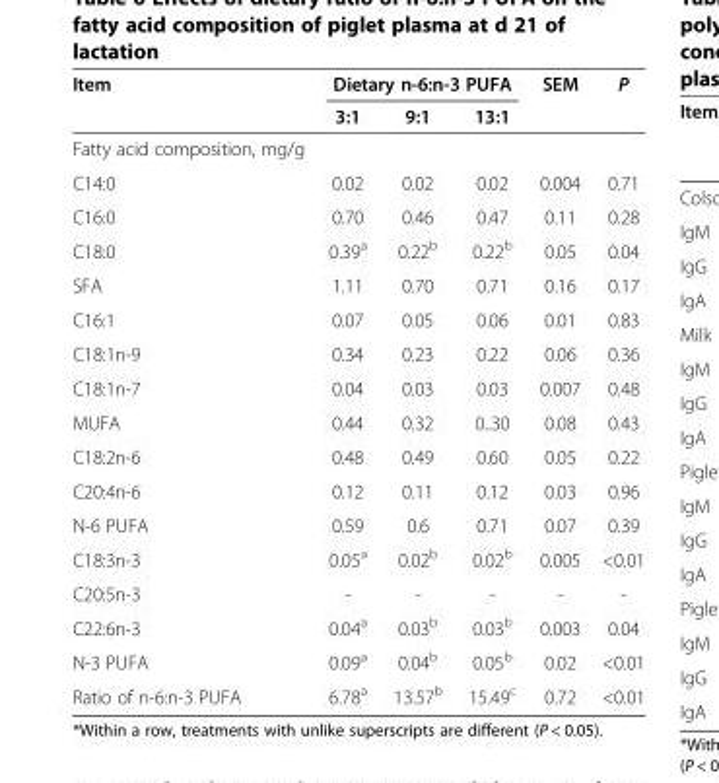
<table><thead><tr><td rowspan="2">Item</td><td colspan="3">Dietary n-6:n-3 PUFA</td><td rowspan="2">SEM</td><td rowspan="2">P</td></tr><tr><td>3:1</td><td>9:1</td><td>13:1</td></tr></thead><tbody><tr><td colspan="6">Fatty acid composition, mg/g</td></tr><tr><td>C14:0</td><td>0.02</td><td>0.02</td><td>0.02</td><td>0.004</td><td>0.71</td></tr><tr><td>C16:0</td><td>0.70</td><td>0.46</td><td>0.47</td><td>0.11</td><td>0.28</td></tr><tr><td>C18:0</td><td>0.39<sup>a</sup></td><td>0.22<sup>b</sup></td><td>0.22<sup>b</sup></td><td>0.05</td><td>0.04</td></tr><tr><td>SFA</td><td>1.11</td><td>0.70</td><td>0.71</td><td>0.16</td><td>0.17</td></tr><tr><td>C16:1</td><td>0.07</td><td>0.05</td><td>0.06</td><td>0.01</td><td>0.83</td></tr><tr><td>C18:1n-9</td><td>0.34</td><td>0.23</td><td>0.22</td><td>0.06</td><td>0.36</td></tr><tr><td>C18:1n-7</td><td>0.04</td><td>0.03</td><td>0.03</td><td>0.007</td><td>0.48</td></tr><tr><td>MUFA</td><td>0.44</td><td>0.32</td><td>0..30</td><td>0.08</td><td>0.43</td></tr><tr><td>C18:2n-6</td><td>0.48</td><td>0.49</td><td>0.60</td><td>0.05</td><td>0.22</td></tr><tr><td>C20:4n-6</td><td>0.12</td><td>0.11</td><td>0.12</td><td>0.03</td><td>0.96</td></tr><tr><td>N-6 PUFA</td><td>0.59</td><td>0.6</td><td>0.71</td><td>0.07</td><td>0.39</td></tr><tr><td>C18:3n-3</td><td>0.05<sup>a</sup></td><td>0.02<sup>b</sup></td><td>0.02<sup>b</sup></td><td>0.005</td><td>&lt;0.01</td></tr><tr><td>C20:5n-3</td><td>-</td><td>-</td><td>-</td><td>-</td><td>-</td></tr><tr><td>C22:6n-3</td><td>0.04<sup>a</sup></td><td>0.03<sup>b</sup></td><td>0.03<sup>b</sup></td><td>0.003</td><td>0.04</td></tr><tr><td>N-3 PUFA</td><td>0.09<sup>a</sup></td><td>0.04<sup>b</sup></td><td>0.05<sup>b</sup></td><td>0.02</td><td>&lt;0.01</td></tr><tr><td>Ratio of n-6:n-3 PUFA</td><td>6.78<sup>a</sup></td><td>13.57<sup>b</sup></td><td>15.49<sup>c</sup></td><td>0.72</td><td>&lt;0.01</td></tr></tbody></table>